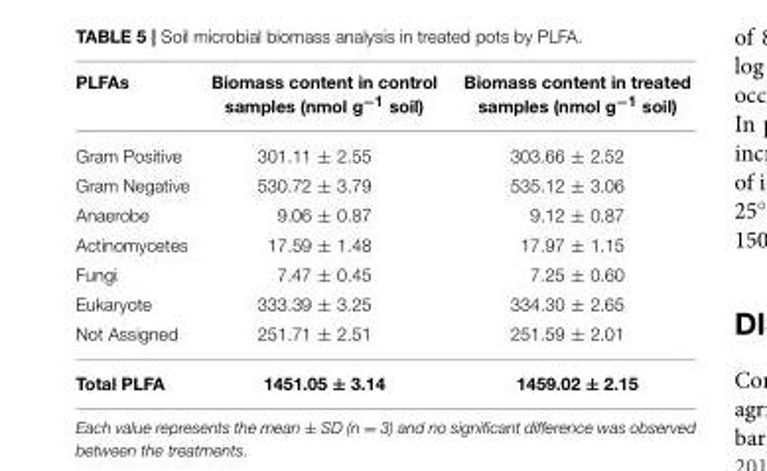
<table><thead><tr><td>PLFAs</td><td>Biomass content in control samples (nmol g<sup>−1</sup> soil)</td><td>Biomass content in treated samples (nmol g<sup>−1</sup> soil)</td></tr></thead><tbody><tr><td>Gram Positive</td><td>301.11 ± 2.55</td><td>303.66 ± 2.52</td></tr><tr><td>Gram Negative</td><td>530.72 ± 3.79</td><td>535.12 ± 3.06</td></tr><tr><td>Anaerobe</td><td>9.06 ± 0.87</td><td>9.12 ± 0.87</td></tr><tr><td>Actinomycetes</td><td>17.59 ± 1.48</td><td>17.97 ± 1.15</td></tr><tr><td>Fungi</td><td>7.47 ± 0.45</td><td>7.25 ± 0.60</td></tr><tr><td>Eukaryote</td><td>333.39 ± 3.25</td><td>334.30 ± 2.65</td></tr><tr><td>Not Assigned</td><td>251.71 ± 2.51</td><td>251.59 ± 2.01</td></tr><tr><td>Total PLFA</td><td>1451.05 ± 3.14</td><td>1459.02 ± 2.15</td></tr></tbody></table>